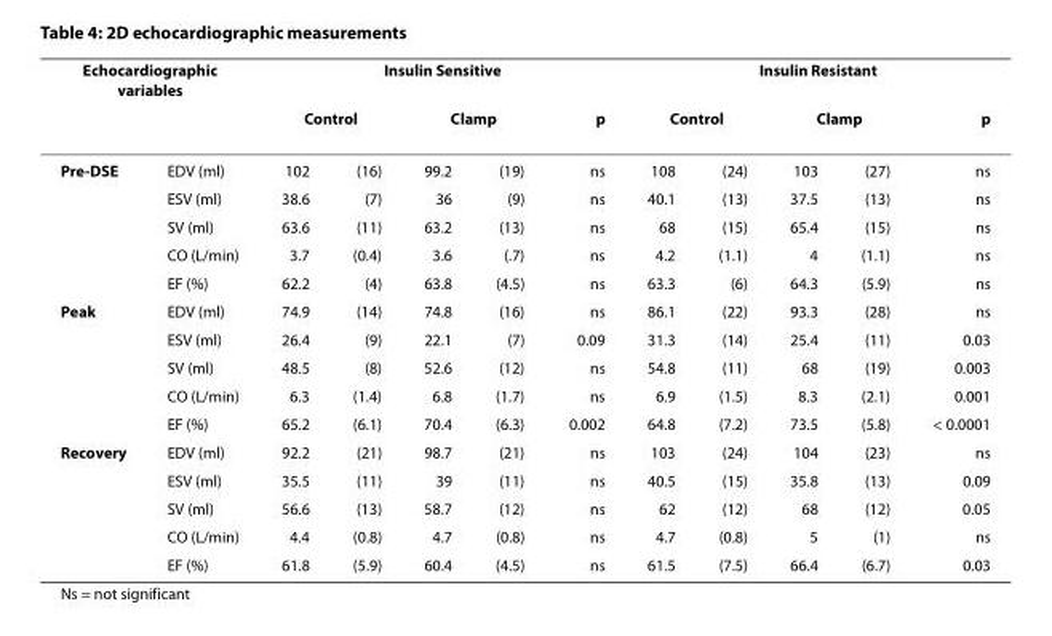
<table><thead><tr><td colspan="2">Echocardiographic variables</td><td colspan="5">Insulin Sensitive</td><td colspan="5">Insulin Resistant</td></tr><tr><td rowspan="2">Pre-DSE</td><td rowspan="2">EDV (ml)</td><td colspan="2">Control</td><td colspan="2">Clamp</td><td rowspan="2">p ns</td><td colspan="2">Control</td><td colspan="2">Clamp</td><td rowspan="2">p ns</td></tr><tr><td>102</td><td>(16)</td><td>99.2</td><td>(19)</td><td>108</td><td>(24)</td><td>103</td><td>(27)</td></tr></thead><tbody><tr><td></td><td>ESV (ml)</td><td>38.6</td><td>(7)</td><td>36</td><td>(9)</td><td>ns</td><td>40.1</td><td>(13)</td><td>37.5</td><td>(13)</td><td>ns</td></tr><tr><td></td><td>SV (ml)</td><td>63.6</td><td>(11)</td><td>63.2</td><td>(13)</td><td>ns</td><td>68</td><td>(15)</td><td>65.4</td><td>(15)</td><td>ns</td></tr><tr><td></td><td>CO (L/min)</td><td>3.7</td><td>(0.4)</td><td>3.6</td><td>(.7)</td><td>ns</td><td>4.2</td><td>(1.1)</td><td>4</td><td>(1.1)</td><td>ns</td></tr><tr><td></td><td>EF (%)</td><td>62.2</td><td>(4)</td><td>63.8</td><td>(4.5)</td><td>ns</td><td>63.3</td><td>(6)</td><td>64.3</td><td>(5.9)</td><td>ns</td></tr><tr><td rowspan="5">Peak</td><td>EDV (ml)</td><td>74.9</td><td>(14)</td><td>74.8</td><td>(16)</td><td>ns</td><td>86.1</td><td>(22)</td><td>93.3</td><td>(28)</td><td>ns</td></tr><tr><td>ESV (ml)</td><td>26.4</td><td>(9)</td><td>22.1</td><td>(7)</td><td>0.09</td><td>31.3</td><td>(14)</td><td>25.4</td><td>(11)</td><td>0.03</td></tr><tr><td>SV (ml)</td><td>48.5</td><td>(8)</td><td>52.6</td><td>(12)</td><td>ns</td><td>54.8</td><td>(11)</td><td>68</td><td>(19)</td><td>0.003</td></tr><tr><td>CO (L/min)</td><td>6.3</td><td>(1.4)</td><td>6.8</td><td>(1.7)</td><td>ns</td><td>6.9</td><td>(1.5)</td><td>8.3</td><td>(2.1)</td><td>0.001</td></tr><tr><td>EF (%)</td><td>65.2</td><td>(6.1)</td><td>70.4</td><td>(6.3)</td><td>0.002</td><td>64.8</td><td>(7.2)</td><td>73.5</td><td>(5.8)</td><td>&lt; 0.0001</td></tr><tr><td rowspan="5">Recovery</td><td>EDV (ml)</td><td>92.2</td><td>(21)</td><td>98.7</td><td>(21)</td><td>ns</td><td>103</td><td>(24)</td><td>104</td><td>(23)</td><td>ns</td></tr><tr><td>ESV (ml)</td><td>35.5</td><td>(11)</td><td>39</td><td>(11)</td><td>ns</td><td>40.5</td><td>(15)</td><td>35.8</td><td>(13)</td><td>0.09</td></tr><tr><td>SV (ml)</td><td>56.6</td><td>(13)</td><td>58.7</td><td>(12)</td><td>ns</td><td>62</td><td>(12)</td><td>68</td><td>(12)</td><td>0.05</td></tr><tr><td>CO (L/min)</td><td>4.4</td><td>(0.8)</td><td>4.7</td><td>(0.8)</td><td>ns</td><td>4.7</td><td>(0.8)</td><td>5</td><td>(1)</td><td>ns</td></tr><tr><td>EF (%)</td><td>61.8</td><td>(5.9)</td><td>60.4</td><td>(4.5)</td><td>ns</td><td>61.5</td><td>(7.5)</td><td>66.4</td><td>(6.7)</td><td>0.03</td></tr></tbody></table>